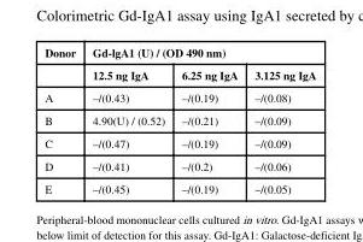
<table><thead><tr><td rowspan="2">Donor</td><td colspan="3">Gd-lgA1 (U) / (OD 490 nm)</td></tr><tr><td>12.5 ng IgA</td><td>6.25 ng IgA</td><td>3.125 ng IgA</td></tr></thead><tbody><tr><td>A</td><td>–/(0.43)</td><td>–/(0.19)</td><td>–/(0.08)</td></tr><tr><td>B</td><td>4.90(U) / (0.52)</td><td>–/(0.21)</td><td>–/(0.09)</td></tr><tr><td>C</td><td>–/(0.47)</td><td>–/(0.19)</td><td>–/(0.09)</td></tr><tr><td>D</td><td>–/(0.41)</td><td>–/(0.2)</td><td>–/(0.06)</td></tr><tr><td>E</td><td>–/(0.45)</td><td>–/(0.19)</td><td>–/(0.05)</td></tr></tbody></table>